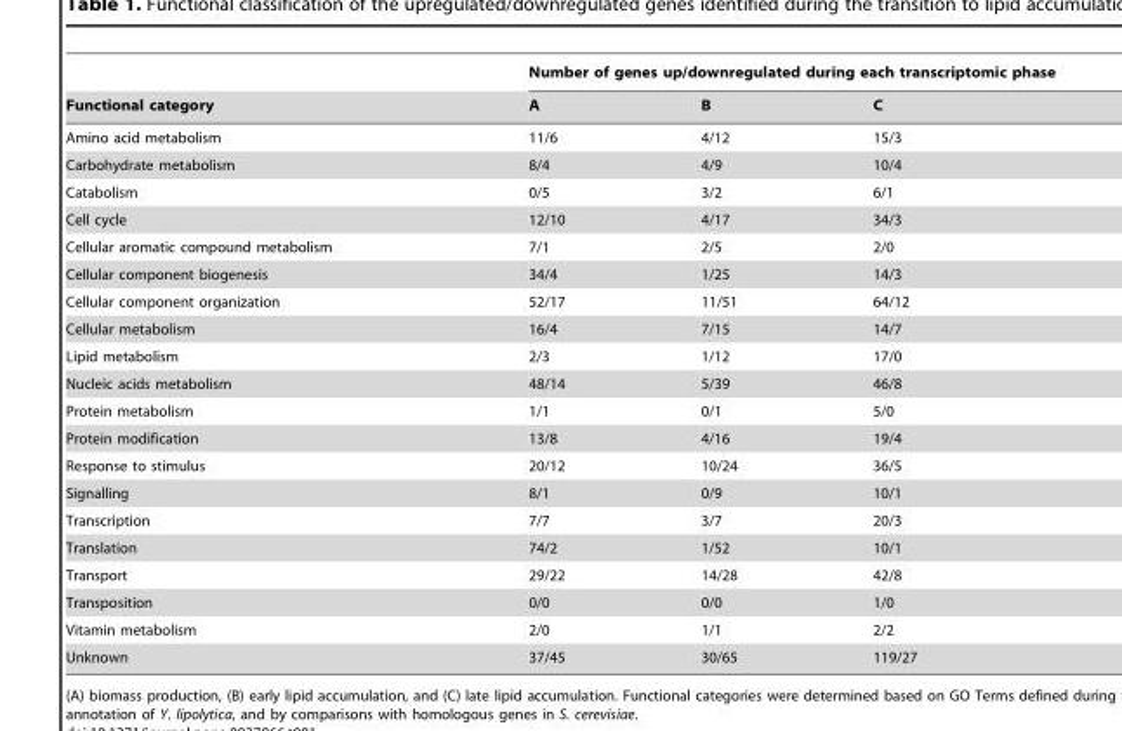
<table><thead><tr><td rowspan="2">Functional category</td><td colspan="3">Number of genes up/downregulated during each transcriptomic phase</td></tr><tr><td>A</td><td>B</td><td>C</td></tr></thead><tbody><tr><td>Amino acid metabolism</td><td>11/6</td><td>4/12</td><td>15/3</td></tr><tr><td>Carbohydrate metabolism</td><td>8/4</td><td>4/9</td><td>10/4</td></tr><tr><td>Catabolism</td><td>0/5</td><td>3/2</td><td>6/1</td></tr><tr><td>Cell cycle</td><td>12/10</td><td>4/17</td><td>34/3</td></tr><tr><td>Cellular aromatic compound metabolism</td><td>7/1</td><td>2/5</td><td>2/0</td></tr><tr><td>Cellular component biogenesis</td><td>34/4</td><td>1/25</td><td>14/3</td></tr><tr><td>Cellular component organization</td><td>52/17</td><td>11/51</td><td>64/12</td></tr><tr><td>Cellular metabolism</td><td>16/4</td><td>7/15</td><td>14/7</td></tr><tr><td>Lipid metabolism</td><td>2/3</td><td>1/12</td><td>17/0</td></tr><tr><td>Nucleic acids metabolism</td><td>48/14</td><td>5/39</td><td>46/8</td></tr><tr><td>Protein metabolism</td><td>1/1</td><td>0/1</td><td>5/0</td></tr><tr><td>Protein modification</td><td>13/8</td><td>4/16</td><td>19/4</td></tr><tr><td>Response to stimulus</td><td>20/12</td><td>10/24</td><td>36/5</td></tr><tr><td>Signalling</td><td>8/1</td><td>0/9</td><td>10/1</td></tr><tr><td>Transcription</td><td>7/7</td><td>3/7</td><td>20/3</td></tr><tr><td>Translation</td><td>74/2</td><td>1/52</td><td>10/1</td></tr><tr><td>Transport</td><td>29/22</td><td>14/28</td><td>42/8</td></tr><tr><td>Transposition</td><td>0/0</td><td>0/0</td><td>1/0</td></tr><tr><td>Vitamin metabolism</td><td>2/0</td><td>1/1</td><td>2/2</td></tr><tr><td>Unknown</td><td>37/45</td><td>30/65</td><td>119/27</td></tr></tbody></table>